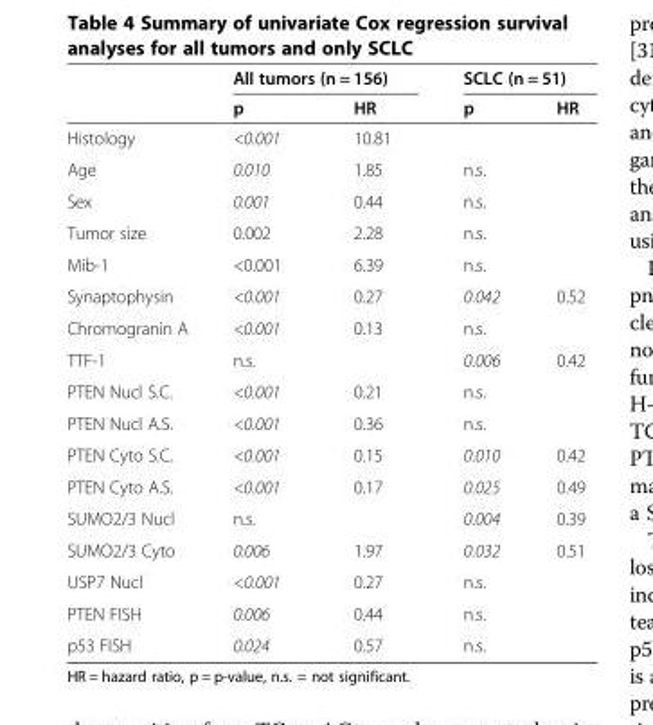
<table><thead><tr><td rowspan="2"></td><td colspan="2">All tumors (n = 156)</td><td colspan="2">SCLC (n = 51)</td></tr><tr><td>p</td><td>HR</td><td>p</td><td>HR</td></tr></thead><tbody><tr><td>Histology</td><td>&lt;0.001</td><td>10.81</td><td></td><td></td></tr><tr><td>Age</td><td>0.010</td><td>1.85</td><td>n.s.</td><td></td></tr><tr><td>Sex</td><td>0.001</td><td>0.44</td><td>n.s.</td><td></td></tr><tr><td>Tumor size</td><td>0.002</td><td>2.28</td><td>n.s.</td><td></td></tr><tr><td>Mib-1</td><td>&lt;0.001</td><td>6.39</td><td>n.s.</td><td></td></tr><tr><td>Synaptophysin</td><td>&lt;0.001</td><td>0.27</td><td>0.042</td><td>0.52</td></tr><tr><td>Chromogranin A</td><td>&lt;0.001</td><td>0.13</td><td>n.s.</td><td></td></tr><tr><td>TTF-1</td><td>n.s.</td><td></td><td>0.006</td><td>0.42</td></tr><tr><td>PTEN Nucl S.C.</td><td>&lt;0.001</td><td>0.21</td><td>n.s.</td><td></td></tr><tr><td>PTEN Nucl A.S.</td><td>&lt;0.001</td><td>0.36</td><td>n.s.</td><td></td></tr><tr><td>PTEN Cyto S.C.</td><td>&lt;0.001</td><td>0.15</td><td>0.010</td><td>0.42</td></tr><tr><td>PTEN Cyto A.S.</td><td>&lt;0.001</td><td>0.17</td><td>0.025</td><td>0.49</td></tr><tr><td>SUMO2/3 Nucl</td><td>n.s.</td><td></td><td>0.004</td><td>0.39</td></tr><tr><td>SUMO2/3 Cyto</td><td>0.006</td><td>1.97</td><td>0.032</td><td>0.51</td></tr><tr><td>USP7 Nucl</td><td>&lt;0.001</td><td>0.27</td><td>n.s.</td><td></td></tr><tr><td>PTEN FISH</td><td>0.006</td><td>0.44</td><td>n.s.</td><td></td></tr><tr><td>p53 FISH</td><td>0.024</td><td>0.57</td><td>n.s.</td><td></td></tr></tbody></table>